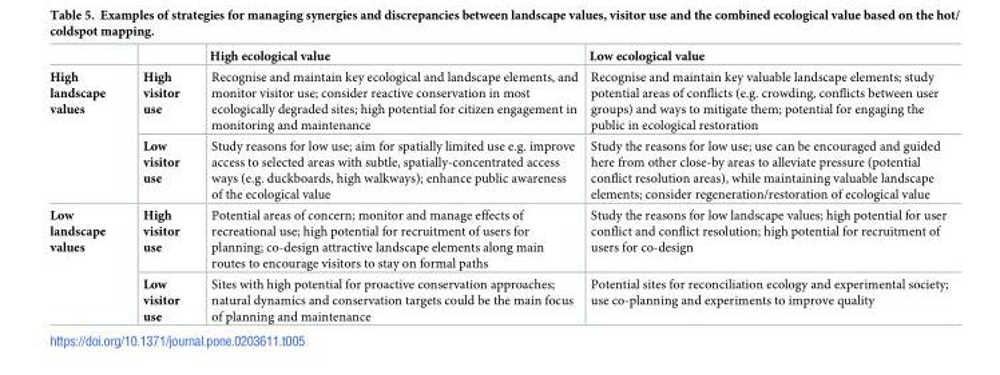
<table><thead><tr><td></td><td></td><td>High ecological value</td><td>Low ecological value</td></tr></thead><tbody><tr><td rowspan="2">High landscape values</td><td>High visitor use</td><td>Recognise and maintain key ecological and landscape elements, and monitor visitor use; consider reactive conservation in most ecologically degraded sites; high potential for citizen engagement in monitoring and maintenance</td><td>Recognise and maintain key valuable landscape elements; study potential areas of conflicts (e.g. crowding, conflicts between user groups) and ways to mitigate them; potential for engaging the public in ecological restoration</td></tr><tr><td>Low visitor use</td><td>Study reasons for low use; aim for spatially limited use e.g. improve access to selected areas with subtle, spatially-concentrated access ways (e.g. duckboards, high walkways); enhance public awareness of the ecological value</td><td>Study the reasons for low use; use can be encouraged and guided here from other close-by areas to alleviate pressure (potential conflict resolution areas), while maintaining valuable landscape elements; consider regeneration/restoration of ecological value</td></tr><tr><td rowspan="2">Low landscape values</td><td>High visitor use</td><td>Potential areas of concern; monitor and manage effects of recreational use; high potential for recruitment of users for planning; co-design attractive landscape elements along main routes to encourage visitors to stay on formal paths</td><td>Study the reasons for low landscape values; high potential for user conflict and conflict resolution; high potential for recruitment of users for co-design</td></tr><tr><td>Low visitor use</td><td>Sites with high potential for proactive conservation approaches; natural dynamics and conservation targets could be the main focus of planning and maintenance</td><td>Potential sites for reconciliation ecology and experimental society; use co-planning and experiments to improve quality</td></tr></tbody></table>